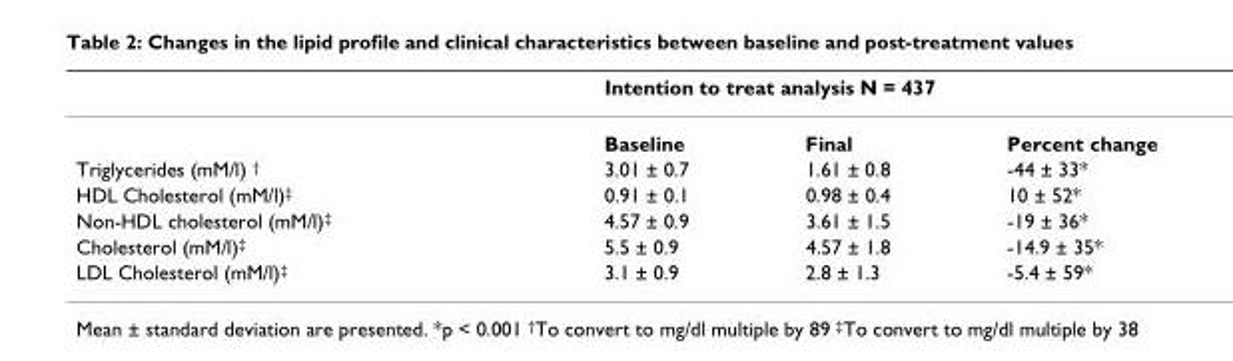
<table><thead><tr><td rowspan="2"></td><td colspan="3">Intention to treat analysis N = 437</td></tr><tr><td>Baseline</td><td>Final</td><td>Percent change</td></tr></thead><tbody><tr><td>Triglycerides (mM/l) <sup>†</sup></td><td>3.01 ± 0.7</td><td>1.61 ± 0.8</td><td>-44 ± 33*</td></tr><tr><td>HDL Cholesterol (mM/l)<sup>‡</sup></td><td>0.91 ± 0.1</td><td>0.98 ± 0.4</td><td>10 ± 52*</td></tr><tr><td>Non-HDL cholesterol (mM/l)<sup>‡</sup></td><td>4.57 ± 0.9</td><td>3.61 ± 1.5</td><td>-19 ± 36*</td></tr><tr><td>Cholesterol (mM/l)<sup>‡</sup></td><td>5.5 ± 0.9</td><td>4.57 ± 1.8</td><td>-14.9 ± 35*</td></tr><tr><td>LDL Cholesterol (mM/l)<sup>‡</sup></td><td>3.1 ± 0.9</td><td>2.8 ± 1.3</td><td>-5.4 ± 59*</td></tr></tbody></table>